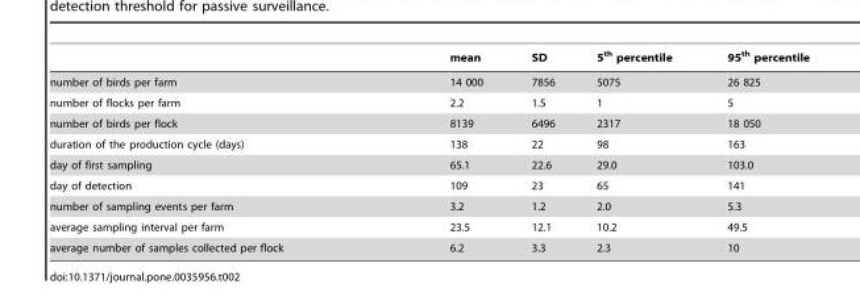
<table><thead><tr><td></td><td>mean</td><td>SD</td><td>5<sup>th</sup> percentile</td><td>95<sup>th</sup> percentile</td></tr></thead><tbody><tr><td>number of birds per farm</td><td>14 000</td><td>7856</td><td>5075</td><td>26 825</td></tr><tr><td>number of flocks per farm</td><td>2.2</td><td>1.5</td><td>1</td><td>5</td></tr><tr><td>number of birds per flock</td><td>8139</td><td>6496</td><td>2317</td><td>18 050</td></tr><tr><td>duration of the production cycle (days)</td><td>138</td><td>22</td><td>98</td><td>163</td></tr><tr><td>day of first sampling</td><td>65.1</td><td>22.6</td><td>29.0</td><td>103.0</td></tr><tr><td>day of detection</td><td>109</td><td>23</td><td>65</td><td>141</td></tr><tr><td>number of sampling events per farm</td><td>3.2</td><td>1.2</td><td>2.0</td><td>5.3</td></tr><tr><td>average sampling interval per farm</td><td>23.5</td><td>12.1</td><td>10.2</td><td>49.5</td></tr><tr><td>average number of samples collected per flock</td><td>6.2</td><td>3.3</td><td>2.3</td><td>10</td></tr></tbody></table>